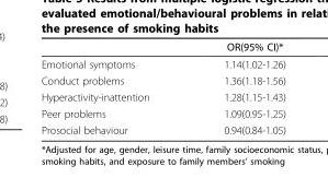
<table><thead><tr><td></td><td>OR(95% CI)*</td></tr></thead><tbody><tr><td>Emotional symptoms</td><td>1.14(1.02-1.26)</td></tr><tr><td>Conduct problems</td><td>1.36(1.18-1.56)</td></tr><tr><td>Hyperactivity-inattention</td><td>1.28(1.15-1.43)</td></tr><tr><td>Peer problems</td><td>1.09(0.95-1.25)</td></tr><tr><td>Prosocial behaviour</td><td>0.94(0.84-1.05)</td></tr></tbody></table>